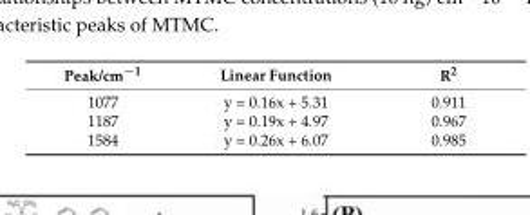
<table><thead><tr><td>Peak/cm<sup>−1</sup></td><td>Linear Function</td><td>R<sup>2</sup></td></tr></thead><tbody><tr><td>1077</td><td>y = 0.16x + 5.31</td><td>0.911</td></tr><tr><td>1187</td><td>y = 0.19x + 4.97</td><td>0.967</td></tr><tr><td>1584</td><td>y = 0.26x + 6.07</td><td>0.985</td></tr></tbody></table>